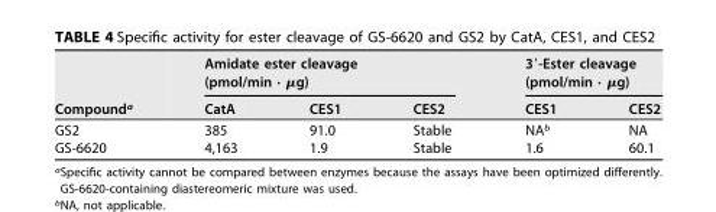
<table><thead><tr><td rowspan="2">Compound<sup>a</sup></td><td colspan="3">Amidate ester cleavage (pmol/min · μg)</td><td colspan="2">3=-Ester cleavage (pmol/min · �g)</td></tr><tr><td>CatA</td><td>CES1</td><td>CES2</td><td>CES1</td><td>CES2</td></tr></thead><tbody><tr><td>GS2</td><td>385</td><td>91.0</td><td>Stable</td><td>NA<sup>b</sup></td><td>NA</td></tr><tr><td>GS-6620</td><td>4,163</td><td>1.9</td><td>Stable</td><td>1.6</td><td>60.1</td></tr></tbody></table>